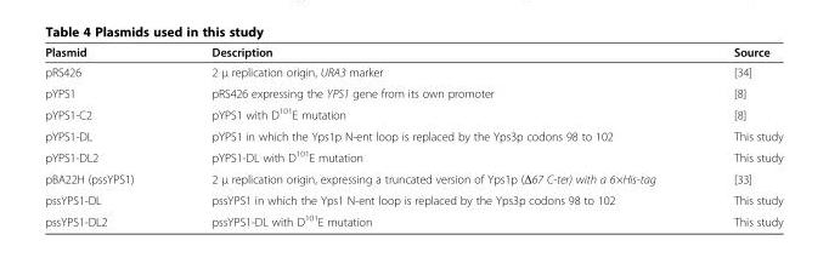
<table><thead><tr><td>Plasmid</td><td>Description</td><td>Source</td></tr></thead><tbody><tr><td>pRS426</td><td>2 μ replication origin, URA3 marker</td><td>[34]</td></tr><tr><td>pYPS1</td><td>pRS426 expressing the YPS1 gene from its own promoter</td><td>[8]</td></tr><tr><td>pYPS1-C2</td><td>pYPS1 with D<sup>101</sup>E mutation</td><td>[8]</td></tr><tr><td>pYPS1-DL</td><td>pYPS1 in which the Yps1p N-ent loop is replaced by the Yps3p codons 98 to 102</td><td>This study</td></tr><tr><td>pYPS1-DL2</td><td>pYPS1-DL with D<sup>101</sup>E mutation</td><td>This study</td></tr><tr><td>pBA22H (pssYPS1)</td><td>2 μ replication origin, expressing a truncated version of Yps1p (Δ67 C-ter) with a 6×His-tag</td><td>[33]</td></tr><tr><td>pssYPS1-DL</td><td>pssYPS1 in which the Yps1 N-ent loop is replaced by the Yps3p codons 98 to 102</td><td>This study</td></tr><tr><td>pssYPS1-DL2</td><td>pssYPS1-DL with D<sup>101</sup>E mutation</td><td>This study</td></tr></tbody></table>